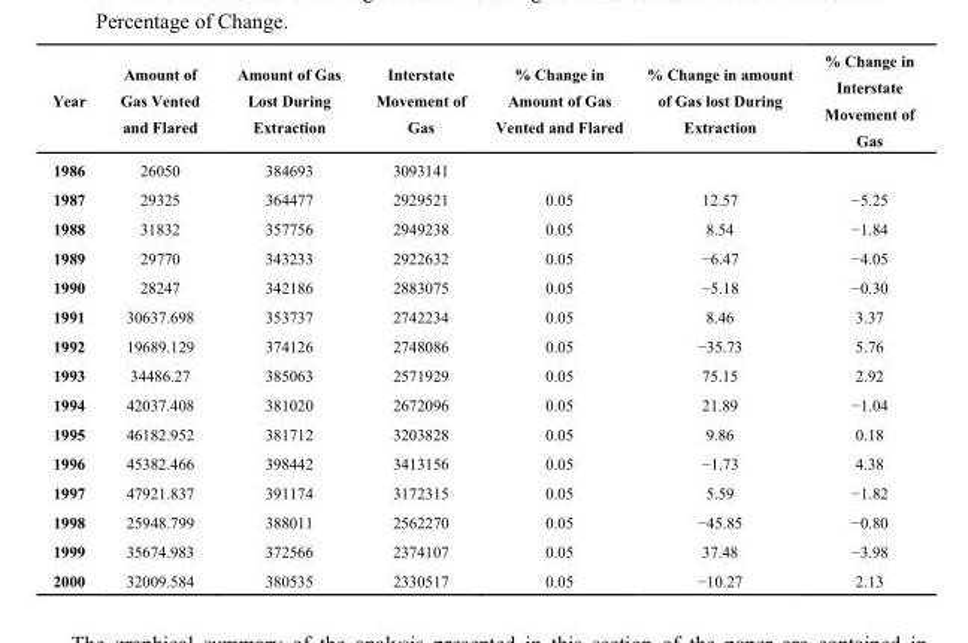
<table><thead><tr><td>Year</td><td>Amount of Gas Vented and Flared</td><td>Amount of Gas Lost During Extraction</td><td>Interstate Movement of Gas</td><td>% Change in Amount of Gas Vented and Flared</td><td>% Change in amount of Gas lost During Extraction</td><td>% Change in Interstate Movement of Gas</td></tr></thead><tbody><tr><td>1986</td><td>26050</td><td>384693</td><td>3093141</td><td></td><td></td><td></td></tr><tr><td>1987</td><td>29325</td><td>364477</td><td>2929521</td><td>0.05</td><td>12.57</td><td>−5.25</td></tr><tr><td>1988</td><td>31832</td><td>357756</td><td>2949238</td><td>0.05</td><td>8.54</td><td>−1.84</td></tr><tr><td>1989</td><td>29770</td><td>343233</td><td>2922632</td><td>0.05</td><td>−6.47</td><td>−4.05</td></tr><tr><td>1990</td><td>28247</td><td>342186</td><td>2883075</td><td>0.05</td><td>−5.18</td><td>−0.30</td></tr><tr><td>1991</td><td>30637.698</td><td>353737</td><td>2742234</td><td>0.05</td><td>8.46</td><td>3.37</td></tr><tr><td>1992</td><td>19689.129</td><td>374126</td><td>2748086</td><td>0.05</td><td>−35.73</td><td>5.76</td></tr><tr><td>1993</td><td>34486.27</td><td>385063</td><td>2571929</td><td>0.05</td><td>75.15</td><td>2.92</td></tr><tr><td>1994</td><td>42037.408</td><td>381020</td><td>2672096</td><td>0.05</td><td>21.89</td><td>−1.04</td></tr><tr><td>1995</td><td>46182.952</td><td>381712</td><td>3203828</td><td>0.05</td><td>9.86</td><td>0.18</td></tr><tr><td>1996</td><td>45382.466</td><td>398442</td><td>3413156</td><td>0.05</td><td>−1.73</td><td>4.38</td></tr><tr><td>1997</td><td>47921.837</td><td>391174</td><td>3172315</td><td>0.05</td><td>5.59</td><td>−1.82</td></tr><tr><td>1998</td><td>25948.799</td><td>388011</td><td>2562270</td><td>0.05</td><td>−45.85</td><td>−0.80</td></tr><tr><td>1999</td><td>35674.983</td><td>372566</td><td>2374107</td><td>0.05</td><td>37.48</td><td>−3.98</td></tr><tr><td>2000</td><td>32009.584</td><td>380535</td><td>2330517</td><td>0.05</td><td>−10.27</td><td>2.13</td></tr></tbody></table>